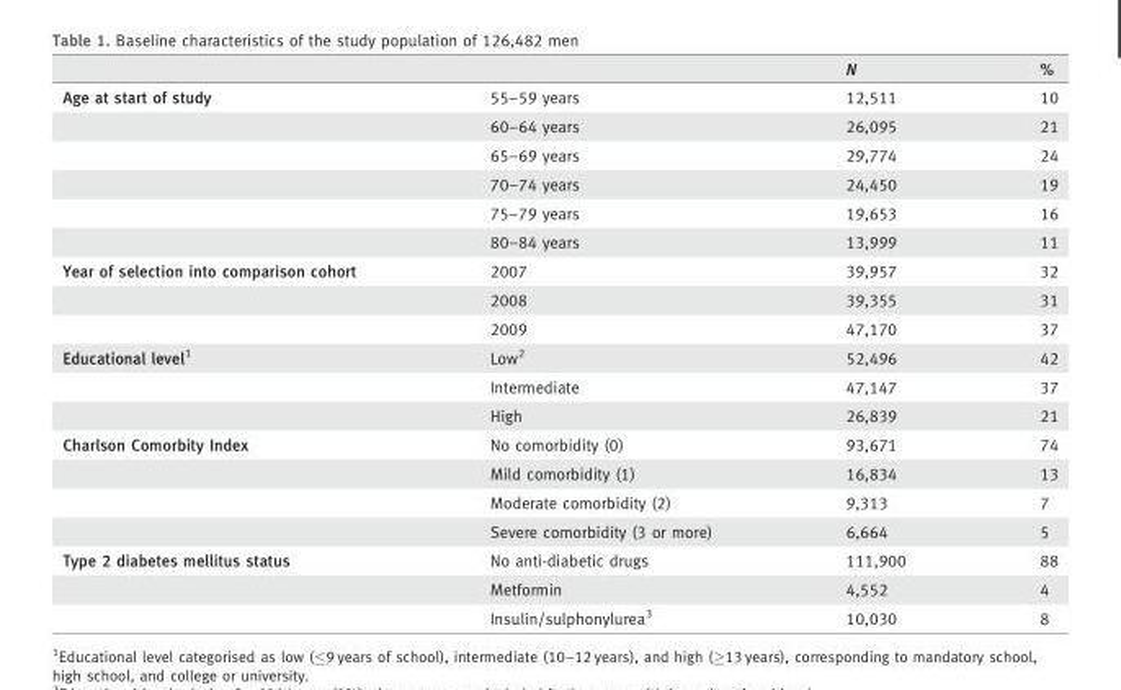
<table><thead><tr><td></td><td></td><td>N</td><td>%</td></tr></thead><tbody><tr><td rowspan="6">Age at start of study</td><td>55–59 years</td><td>12,511</td><td>10</td></tr><tr><td>60–64 years</td><td>26,095</td><td>21</td></tr><tr><td>65–69 years</td><td>29,774</td><td>24</td></tr><tr><td>70–74 years</td><td>24,450</td><td>19</td></tr><tr><td>75–79 years</td><td>19,653</td><td>16</td></tr><tr><td>80–84 years</td><td>13,999</td><td>11</td></tr><tr><td rowspan="3">Year of selection into comparison cohort</td><td>2007</td><td>39,957</td><td>32</td></tr><tr><td>2008</td><td>39,355</td><td>31</td></tr><tr><td>2009</td><td>47,170</td><td>37</td></tr><tr><td rowspan="3">Educational level1</td><td>Low2</td><td>52,496</td><td>42</td></tr><tr><td>Intermediate</td><td>47,147</td><td>37</td></tr><tr><td>High</td><td>26,839</td><td>21</td></tr><tr><td rowspan="4">Charlson Comorbity Index</td><td>No comorbidity (0)</td><td>93,671</td><td>74</td></tr><tr><td>Mild comorbidity (1)</td><td>16,834</td><td>13</td></tr><tr><td>Moderate comorbidity (2)</td><td>9,313</td><td>7</td></tr><tr><td>Severe comorbidity (3 or more)</td><td>6,664</td><td>5</td></tr><tr><td rowspan="3">Type 2 diabetes mellitus status</td><td>No anti-diabetic drugs</td><td>111,900</td><td>88</td></tr><tr><td>Metformin</td><td>4,552</td><td>4</td></tr><tr><td>Insulin/sulphonylurea3</td><td>10,030</td><td>8</td></tr></tbody></table>